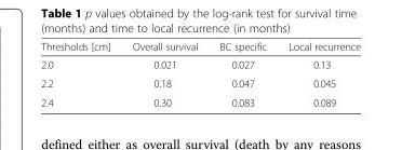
<table><thead><tr><td>Thresholds [cm]</td><td>Overall survival</td><td>BC specific</td><td>Local recurrence</td></tr></thead><tbody><tr><td>2.0</td><td>0.021</td><td>0.027</td><td>0.13</td></tr><tr><td>2.2</td><td>0.18</td><td>0.047</td><td>0.045</td></tr><tr><td>2.4</td><td>0.30</td><td>0.083</td><td>0.089</td></tr></tbody></table>